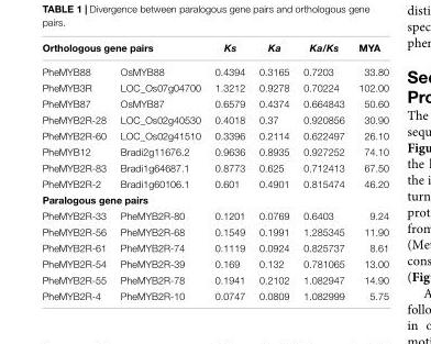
<table><thead><tr><td colspan="2">Orthologous gene pairs</td><td rowspan="2">Ks 0.4394</td><td rowspan="2">Ka 0.3165</td><td rowspan="2">Ka/Ks 0.7203</td><td rowspan="2">MYA 33.80</td></tr><tr><td>PheMYB88</td><td>OsMYB88</td></tr></thead><tbody><tr><td>PheMYB3R</td><td>LOC_Os07g04700</td><td>1.3212</td><td>0.9278</td><td>0.70224</td><td>102.00</td></tr><tr><td>PheMYB87</td><td>OsMYB87</td><td>0.6579</td><td>0.4374</td><td>0.664843</td><td>50.60</td></tr><tr><td>PheMYB2R-28</td><td>LOC_Os02g40530</td><td>0.4018</td><td>0.37</td><td>0.920856</td><td>30.90</td></tr><tr><td>PheMYB2R-60</td><td>LOC_Os02g41510</td><td>0.3396</td><td>0.2114</td><td>0.622497</td><td>26.10</td></tr><tr><td>PheMYB12</td><td>Bradi2g11676.2</td><td>0.9636</td><td>0.8935</td><td>0.927252</td><td>74.10</td></tr><tr><td>PheMYB2R-83</td><td>Bradi1g64687.1</td><td>0.8773</td><td>0.625</td><td>0.712413</td><td>67.50</td></tr><tr><td>PheMYB2R-2</td><td>Bradi1g60106.1</td><td>0.601</td><td>0.4901</td><td>0.815474</td><td>46.20</td></tr><tr><td colspan="6">Paralogous gene pairs</td></tr><tr><td>PheMYB2R-33</td><td>PheMYB2R-80</td><td>0.1201</td><td>0.0769</td><td>0.6403</td><td>9.24</td></tr><tr><td>PheMYB2R-56</td><td>PheMYB2R-68</td><td>0.1549</td><td>0.1991</td><td>1.285345</td><td>11.90</td></tr><tr><td>PheMYB2R-61</td><td>PheMYB2R-74</td><td>0.1119</td><td>0.0924</td><td>0.825737</td><td>8.61</td></tr><tr><td>PheMYB2R-54</td><td>PheMYB2R-39</td><td>0.169</td><td>0.132</td><td>0.781065</td><td>13.00</td></tr><tr><td>PheMYB2R-55</td><td>PheMYB2R-78</td><td>0.1941</td><td>0.2102</td><td>1.082947</td><td>14.90</td></tr><tr><td>PheMYB2R-4</td><td>PheMYB2R-10</td><td>0.0747</td><td>0.0809</td><td>1.082999</td><td>5.75</td></tr></tbody></table>